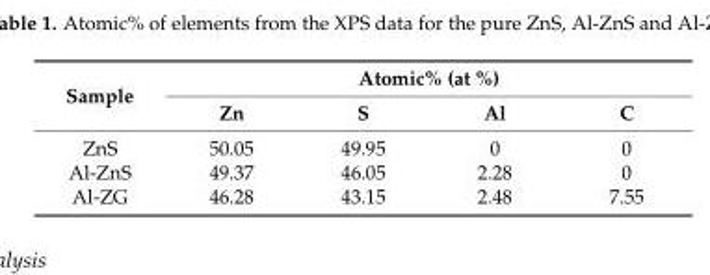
<table><thead><tr><td rowspan="2">Sample</td><td colspan="4">Atomic% (at %)</td></tr><tr><td>Zn</td><td>S</td><td>Al</td><td>C</td></tr></thead><tbody><tr><td>ZnS</td><td>50.05</td><td>49.95</td><td>0</td><td>0</td></tr><tr><td>Al-ZnS</td><td>49.37</td><td>46.05</td><td>2.28</td><td>0</td></tr><tr><td>Al-ZG</td><td>46.28</td><td>43.15</td><td>2.48</td><td>7.55</td></tr></tbody></table>